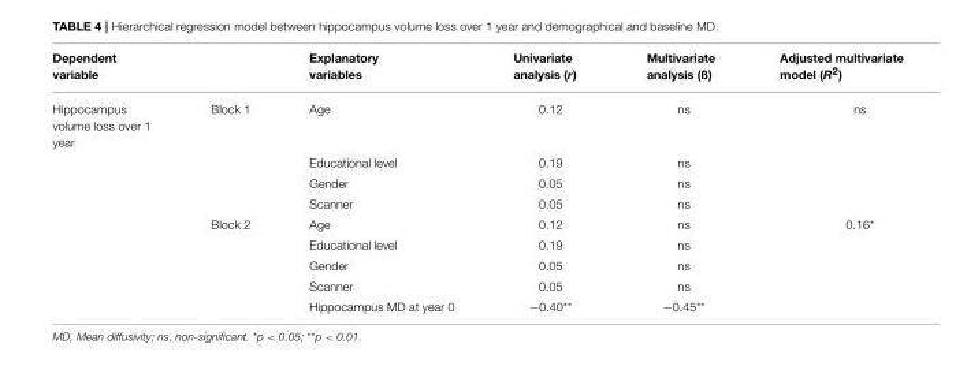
<table><thead><tr><td>Dependent variable</td><td></td><td>Explanatory variables</td><td>Univariate analysis (r)</td><td>Multivariate analysis (ß)</td><td>Adjusted multivariate model (R<sup>2</sup>)</td></tr></thead><tbody><tr><td rowspan="9">Hippocampus volume loss over 1 year</td><td>Block 1</td><td>Age</td><td>0.12</td><td>ns</td><td>ns</td></tr><tr><td></td><td>Educational level</td><td>0.19</td><td>ns</td><td></td></tr><tr><td></td><td>Gender</td><td>0.05</td><td>ns</td><td></td></tr><tr><td></td><td>Scanner</td><td>0.05</td><td>ns</td><td></td></tr><tr><td>Block 2</td><td>Age</td><td>0.12</td><td>ns</td><td>0.16*</td></tr><tr><td></td><td>Educational level</td><td>0.19</td><td>ns</td><td></td></tr><tr><td></td><td>Gender</td><td>0.05</td><td>ns</td><td></td></tr><tr><td></td><td>Scanner</td><td>0.05</td><td>ns</td><td></td></tr><tr><td></td><td>Hippocampus MD at year 0</td><td>−0.40**</td><td>−0.45**</td><td></td></tr></tbody></table>